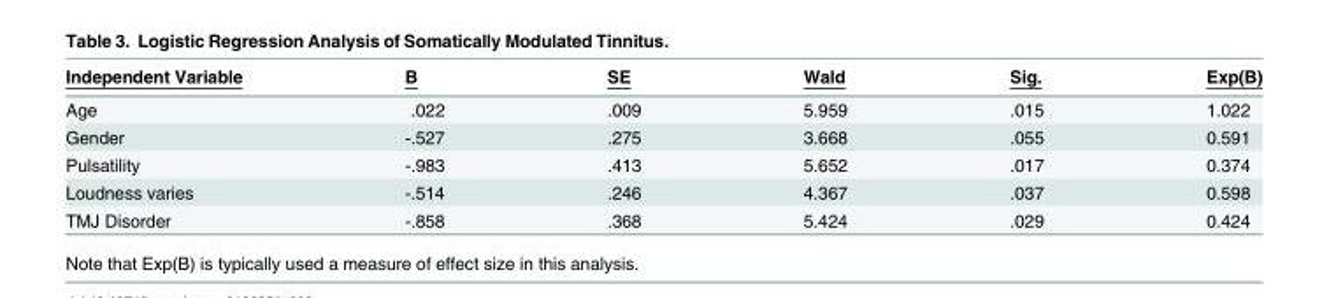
<table><thead><tr><td>Independent Variable</td><td>B</td><td>SE</td><td>Wald</td><td>Sig.</td><td>Exp(B)</td></tr></thead><tbody><tr><td>Age</td><td>.022</td><td>.009</td><td>5.959</td><td>.015</td><td>1.022</td></tr><tr><td>Gender</td><td>-.527</td><td>.275</td><td>3.668</td><td>.055</td><td>0.591</td></tr><tr><td>Pulsatility</td><td>-.983</td><td>.413</td><td>5.652</td><td>.017</td><td>0.374</td></tr><tr><td>Loudness varies</td><td>-.514</td><td>.246</td><td>4.367</td><td>.037</td><td>0.598</td></tr><tr><td>TMJ Disorder</td><td>-.858</td><td>.368</td><td>5.424</td><td>.029</td><td>0.424</td></tr></tbody></table>